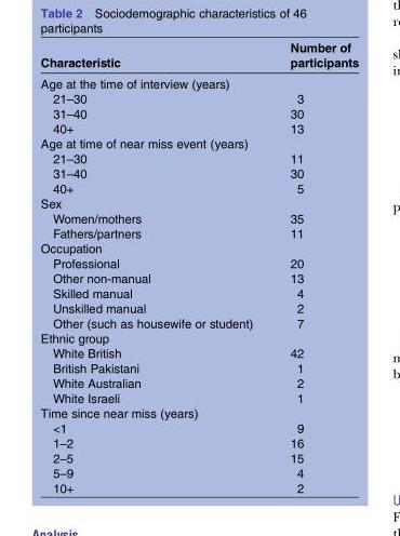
<table><thead><tr><td>Characteristic</td><td>Number of participants</td></tr></thead><tbody><tr><td colspan="2">Age at the time of interview (years)</td></tr><tr><td>21–30</td><td>3</td></tr><tr><td>31–40</td><td>30</td></tr><tr><td>40+</td><td>13</td></tr><tr><td colspan="2">Age at time of near miss event (years)</td></tr><tr><td>21–30</td><td>11</td></tr><tr><td>31–40</td><td>30</td></tr><tr><td>40+</td><td>5</td></tr><tr><td colspan="2">Sex</td></tr><tr><td>Women/mothers</td><td>35</td></tr><tr><td>Fathers/partners</td><td>11</td></tr><tr><td colspan="2">Occupation</td></tr><tr><td>Professional</td><td>20</td></tr><tr><td>Other non-manual</td><td>13</td></tr><tr><td>Skilled manual</td><td>4</td></tr><tr><td>Unskilled manual</td><td>2</td></tr><tr><td>Other (such as housewife or student)</td><td>7</td></tr><tr><td colspan="2">Ethnic group</td></tr><tr><td>White British</td><td>42</td></tr><tr><td>British Pakistani</td><td>1</td></tr><tr><td>White Australian</td><td>2</td></tr><tr><td>White Israeli</td><td>1</td></tr><tr><td colspan="2">Time since near miss (years)</td></tr><tr><td>&lt;1</td><td>9</td></tr><tr><td>1–2</td><td>16</td></tr><tr><td>2–5</td><td>15</td></tr><tr><td>5–9</td><td>4</td></tr><tr><td>10+</td><td>2</td></tr></tbody></table>